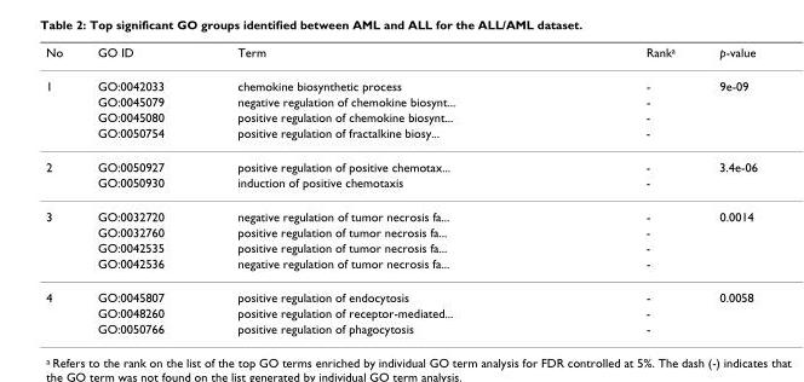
<table><thead><tr><td>No</td><td>GO ID</td><td>Term</td><td>Rank<sup>a</sup></td><td>p-value</td></tr></thead><tbody><tr><td rowspan="4">1</td><td>GO:0042033</td><td>chemokine biosynthetic process</td><td>-</td><td>9e-09</td></tr><tr><td>GO:0045079</td><td>negative regulation of chemokine biosynt...</td><td>-</td><td></td></tr><tr><td>GO:0045080</td><td>positive regulation of chemokine biosynt...</td><td>-</td><td></td></tr><tr><td>GO:0050754</td><td>positive regulation of fractalkine biosy...</td><td>-</td><td></td></tr><tr><td rowspan="2">2</td><td>GO:0050927</td><td>positive regulation of positive chemotax...</td><td>-</td><td>3.4e-06</td></tr><tr><td>GO:0050930</td><td>induction of positive chemotaxis</td><td>-</td><td></td></tr><tr><td rowspan="4">3</td><td>GO:0032720</td><td>negative regulation of tumor necrosis fa...</td><td>-</td><td>0.0014</td></tr><tr><td>GO:0032760</td><td>positive regulation of tumor necrosis fa...</td><td>-</td><td></td></tr><tr><td>GO:0042535</td><td>positive regulation of tumor necrosis fa...</td><td>-</td><td></td></tr><tr><td>GO:0042536</td><td>negative regulation of tumor necrosis fa...</td><td>-</td><td></td></tr><tr><td rowspan="3">4</td><td>GO:0045807</td><td>positive regulation of endocytosis</td><td>-</td><td>0.0058</td></tr><tr><td>GO:0048260</td><td>positive regulation of receptor-mediated...</td><td>-</td><td></td></tr><tr><td>GO:0050766</td><td>positive regulation of phagocytosis</td><td>-</td><td></td></tr></tbody></table>